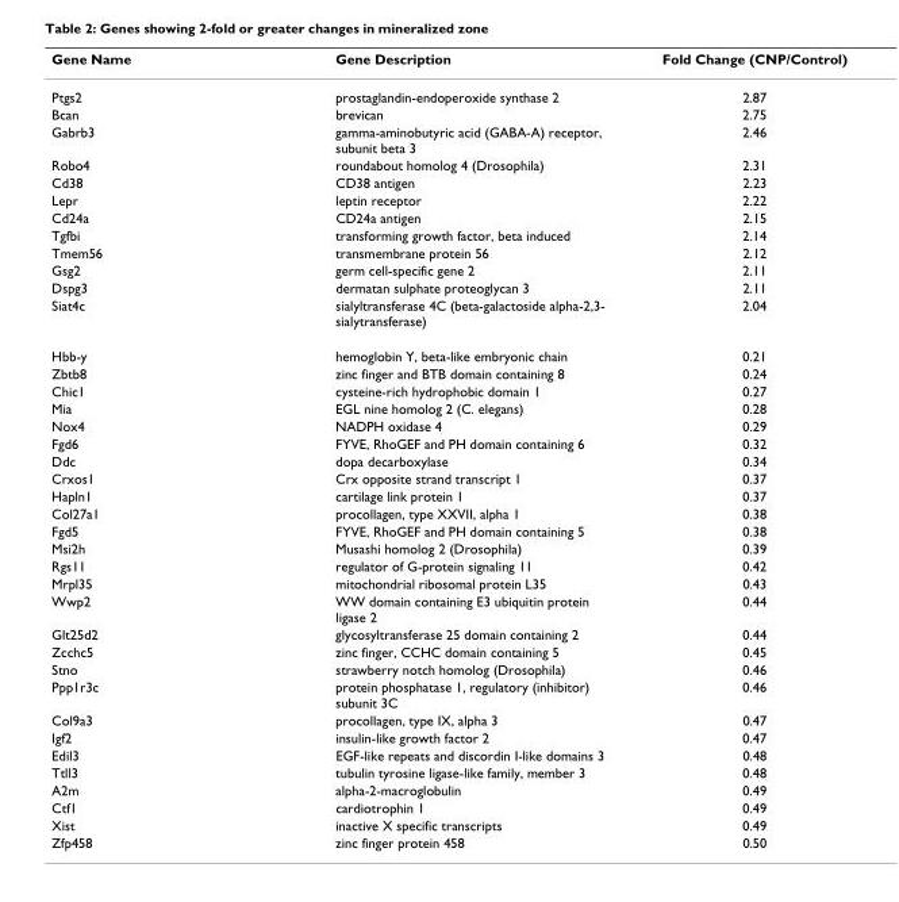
<table><thead><tr><td>Gene Name</td><td>Gene Description</td><td>Fold Change (CNP/Control)</td></tr></thead><tbody><tr><td>Ptgs2</td><td>prostaglandin-endoperoxide synthase 2</td><td>2.87</td></tr><tr><td>Bcan</td><td>brevican</td><td>2.75</td></tr><tr><td>Gabrb3</td><td>gamma-aminobutyric acid (GABA-A) receptor, subunit beta 3</td><td>2.46</td></tr><tr><td>Robo4</td><td>roundabout homolog 4 (Drosophila)</td><td>2.31</td></tr><tr><td>Cd38</td><td>CD38 antigen</td><td>2.23</td></tr><tr><td>Lepr</td><td>leptin receptor</td><td>2.22</td></tr><tr><td>Cd24a</td><td>CD24a antigen</td><td>2.15</td></tr><tr><td>Tgfbi</td><td>transforming growth factor, beta induced</td><td>2.14</td></tr><tr><td>Tmem56</td><td>transmembrane protein 56</td><td>2.12</td></tr><tr><td>Gsg2</td><td>germ cell-specific gene 2</td><td>2.11</td></tr><tr><td>Dspg3</td><td>dermatan sulphate proteoglycan 3</td><td>2.11</td></tr><tr><td>Siat4c</td><td>sialyltransferase 4C (beta-galactoside alpha-2,3- sialytransferase)</td><td>2.04</td></tr><tr><td>Hbb-y</td><td>hemoglobin Y, beta-like embryonic chain</td><td>0.21</td></tr><tr><td>Zbtb8</td><td>zinc finger and BTB domain containing 8</td><td>0.24</td></tr><tr><td>Chic1</td><td>cysteine-rich hydrophobic domain 1</td><td>0.27</td></tr><tr><td>Mia</td><td>EGL nine homolog 2 (C. elegans)</td><td>0.28</td></tr><tr><td>Nox4</td><td>NADPH oxidase 4</td><td>0.29</td></tr><tr><td>Fgd6</td><td>FYVE, RhoGEF and PH domain containing 6</td><td>0.32</td></tr><tr><td>Ddc</td><td>dopa decarboxylase</td><td>0.34</td></tr><tr><td>Crxos1</td><td>Crx opposite strand transcript 1</td><td>0.37</td></tr><tr><td>Hapln1</td><td>cartilage link protein 1</td><td>0.37</td></tr><tr><td>Col27a1</td><td>procollagen, type XXVII, alpha 1</td><td>0.38</td></tr><tr><td>Fgd5</td><td>FYVE, RhoGEF and PH domain containing 5</td><td>0.38</td></tr><tr><td>Msi2h</td><td>Musashi homolog 2 (Drosophila)</td><td>0.39</td></tr><tr><td>Rgs11</td><td>regulator of G-protein signaling 11</td><td>0.42</td></tr><tr><td>Mrpl35</td><td>mitochondrial ribosomal protein L35</td><td>0.43</td></tr><tr><td>Wwp2</td><td>WW domain containing E3 ubiquitin protein ligase 2</td><td>0.44</td></tr><tr><td>Glt25d2</td><td>glycosyltransferase 25 domain containing 2</td><td>0.44</td></tr><tr><td>Zcchc5</td><td>zinc finger, CCHC domain containing 5</td><td>0.45</td></tr><tr><td>Stno</td><td>strawberry notch homolog (Drosophila)</td><td>0.46</td></tr><tr><td>Ppp1r3c</td><td>protein phosphatase 1, regulatory (inhibitor) subunit 3C</td><td>0.46</td></tr><tr><td>Col9a3</td><td>procollagen, type IX, alpha 3</td><td>0.47</td></tr><tr><td>Igf2</td><td>insulin-like growth factor 2</td><td>0.47</td></tr><tr><td>Edil3</td><td>EGF-like repeats and discordin I-like domains 3</td><td>0.48</td></tr><tr><td>Ttll3</td><td>tubulin tyrosine ligase-like family, member 3</td><td>0.48</td></tr><tr><td>A2m</td><td>alpha-2-macroglobulin</td><td>0.49</td></tr><tr><td>Ctf1</td><td>cardiotrophin 1</td><td>0.49</td></tr><tr><td>Xist</td><td>inactive X specific transcripts</td><td>0.49</td></tr><tr><td>Zfp458</td><td>zinc finger protein 458</td><td>0.50</td></tr></tbody></table>